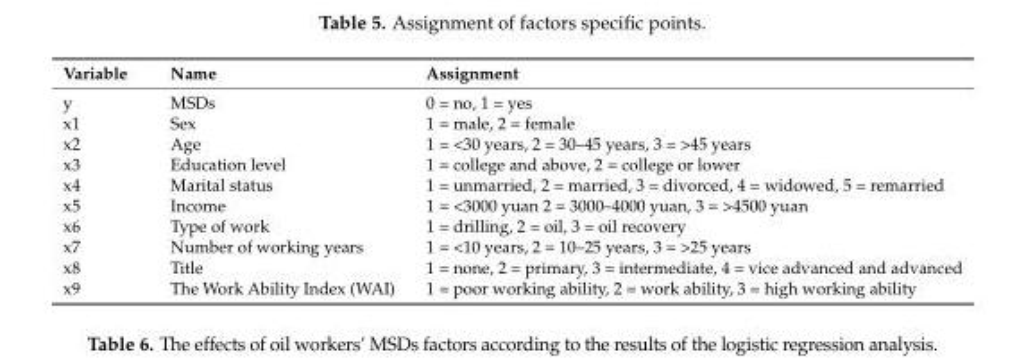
<table><thead><tr><td>Variable</td><td>Name</td><td>Assignment</td></tr></thead><tbody><tr><td>y</td><td>MSDs</td><td>0 = no, 1 = yes</td></tr><tr><td>x1</td><td>Sex</td><td>1 = male, 2 = female</td></tr><tr><td>x2</td><td>Age</td><td>1 = &lt;30 years, 2 = 30–45 years, 3 = &gt;45 years</td></tr><tr><td>x3</td><td>Education level</td><td>1 = college and above, 2 = college or lower</td></tr><tr><td>x4</td><td>Marital status</td><td>1 = unmarried, 2 = married, 3 = divorced, 4 = widowed, 5 = remarried</td></tr><tr><td>x5</td><td>Income</td><td>1 = &lt;3000 yuan 2 = 3000–4000 yuan, 3 = &gt;4500 yuan</td></tr><tr><td>x6</td><td>Type of work</td><td>1 = drilling, 2 = oil, 3 = oil recovery</td></tr><tr><td>x7</td><td>Number of working years</td><td>1 = &lt;10 years, 2 = 10–25 years, 3 = &gt;25 years</td></tr><tr><td>x8</td><td>Title</td><td>1 = none, 2 = primary, 3 = intermediate, 4 = vice advanced and advanced</td></tr><tr><td>x9</td><td>The Work Ability Index (WAI)</td><td>1 = poor working ability, 2 = work ability, 3 = high working ability</td></tr></tbody></table>